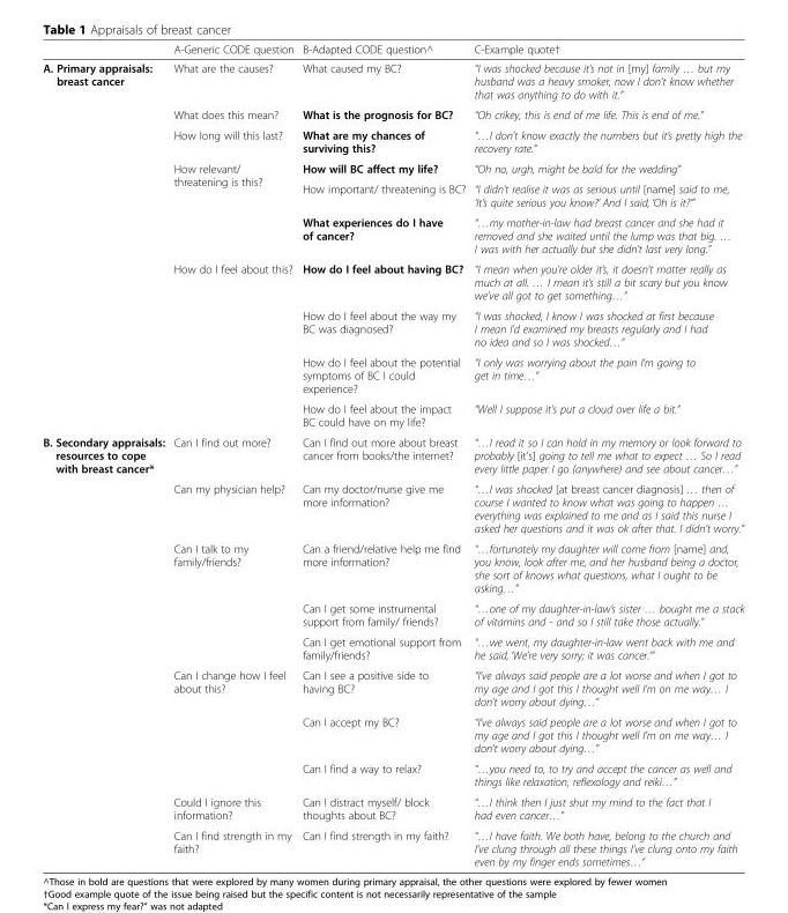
<table><thead><tr><td></td><td>A-Generic CODE question</td><td>B-Adapted CODE question^</td><td>C-Example quote†</td></tr></thead><tbody><tr><td rowspan="10">A. Primary appraisals: breast cancer</td><td>What are the causes?</td><td>What caused my BC?</td><td>“I was shocked because it’s not in [my] family … but my husband was a heavy smoker, now I don’t know whether that was anything to do with it.”</td></tr><tr><td>What does this mean?</td><td>What is the prognosis for BC?</td><td>“Oh crikey, this is end of me life. This is end of me.”</td></tr><tr><td>How long will this last?</td><td>What are my chances of surviving this?</td><td>“…I don’t know exactly the numbers but it’s pretty high the recovery rate.”</td></tr><tr><td rowspan="3">How relevant/ threatening is this?</td><td>How will BC affect my life?</td><td>“Oh no, urgh, might be bald for the wedding”</td></tr><tr><td>How important/ threatening is BC?</td><td>“I didn’t realise it was as serious until [name] said to me, ‘It’s quite serious you know?’ And I said, ‘Oh is it?’”</td></tr><tr><td>What experiences do I have of cancer?</td><td>“…my mother-in-law had breast cancer and she had it removed and she waited until the lump was that big. … I was with her actually but she didn’t last very long.”</td></tr><tr><td rowspan="4">How do I feel about this?</td><td>How do I feel about having BC?</td><td>“I mean when you’re older it’s, it doesn’t matter really as much at all. … I mean it’s still a bit scary but you know we’ve all got to get something…”</td></tr><tr><td>How do I feel about the way my BC was diagnosed?</td><td>“I was shocked, I know I was shocked at first because I mean I’d examined my breasts regularly and I had no idea and so I was shocked…”</td></tr><tr><td>How do I feel about the potential symptoms of BC I could experience?</td><td>“I only was worrying about the pain I’m going to get in time…”</td></tr><tr><td>How do I feel about the impact BC could have on my life?</td><td>“Well I suppose it&#x27;s put a cloud over life a bit.”</td></tr><tr><td rowspan="10">B. Secondary appraisals: resources to cope with breast cancer*</td><td>Can I find out more?</td><td>Can I find out more about breast cancer from books/the internet?</td><td>“…I read it so I can hold in my memory or look forward to probably [it&#x27;s] going to tell me what to expect … So I read every little paper I go (anywhere) and see about cancer…”</td></tr><tr><td>Can my physician help?</td><td>Can my doctor/nurse give me more information?</td><td>“…I was shocked [at breast cancer diagnosis] … then of course I wanted to know what was going to happen … everything was explained to me and as I said this nurse I asked her questions and it was ok after that. I didn’t worry.”</td></tr><tr><td rowspan="3">Can I talk to my family/friends?</td><td>Can a friend/relative help me find more information?</td><td>“…fortunately my daughter will come from [name] and, you know, look after me, and her husband being a doctor, she sort of knows what questions, what I ought to be asking…”</td></tr><tr><td>Can I get some instrumental support from family/ friends?</td><td>“…one of my daughter-in-law’s sister … bought me a stack of vitamins and - and so I still take those actually.”</td></tr><tr><td>Can I get emotional support from family/friends?</td><td>“…we went, my daughter-in-law went back with me and he said, ‘We’re very sorry; it was cancer.’”</td></tr><tr><td rowspan="3">Can I change how I feel about this?</td><td>Can I see a positive side to having BC?</td><td>“I’ve always said people are a lot worse and when I got to my age and I got this I thought well I’m on me way… I don’t worry about dying…”</td></tr><tr><td>Can I accept my BC?</td><td>“I’ve always said people are a lot worse and when I got to my age and I got this I thought well I’m on me way… I don’t worry about dying…”</td></tr><tr><td>Can I find a way to relax?</td><td>“…you need to, to try and accept the cancer as well and things like relaxation, reflexology and reiki…”</td></tr><tr><td>Could I ignore this information?</td><td>Can I distract myself/ block thoughts about BC?</td><td>“…I think then I just shut my mind to the fact that I had even cancer…”</td></tr><tr><td>Can I find strength in my faith?</td><td>Can I find strength in my faith?</td><td>“…I have faith. We both have, belong to the church and I’ve clung through all these things I’ve clung onto my faith even by my finger ends sometimes…”</td></tr></tbody></table>